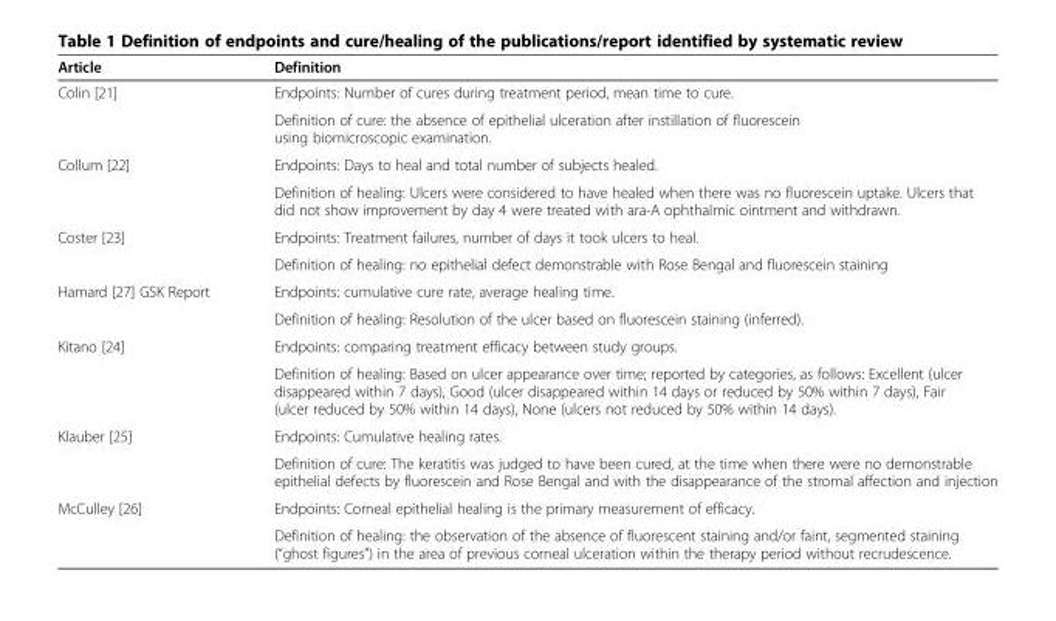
<table><thead><tr><td>Article</td><td>Definition</td></tr></thead><tbody><tr><td rowspan="2">Colin [21]</td><td>Endpoints: Number of cures during treatment period, mean time to cure.</td></tr><tr><td>Definition of cure: the absence of epithelial ulceration after instillation of fluorescein using biomicroscopic examination.</td></tr><tr><td rowspan="2">Collum [22]</td><td>Endpoints: Days to heal and total number of subjects healed.</td></tr><tr><td>Definition of healing: Ulcers were considered to have healed when there was no fluorescein uptake. Ulcers that did not show improvement by day 4 were treated with ara-A ophthalmic ointment and withdrawn.</td></tr><tr><td rowspan="2">Coster [23]</td><td>Endpoints: Treatment failures, number of days it took ulcers to heal.</td></tr><tr><td>Definition of healing: no epithelial defect demonstrable with Rose Bengal and fluorescein staining</td></tr><tr><td rowspan="2">Hamard [27] GSK Report</td><td>Endpoints: cumulative cure rate, average healing time.</td></tr><tr><td>Definition of healing: Resolution of the ulcer based on fluorescein staining (inferred).</td></tr><tr><td rowspan="2">Kitano [24]</td><td>Endpoints: comparing treatment efficacy between study groups.</td></tr><tr><td>Definition of healing: Based on ulcer appearance over time; reported by categories, as follows: Excellent (ulcer disappeared within 7 days), Good (ulcer disappeared within 14 days or reduced by 50% within 7 days), Fair (ulcer reduced by 50% within 14 days), None (ulcers not reduced by 50% within 14 days).</td></tr><tr><td rowspan="2">Klauber [25]</td><td>Endpoints: Cumulative healing rates.</td></tr><tr><td>Definition of cure: The keratitis was judged to have been cured, at the time when there were no demonstrable epithelial defects by fluorescein and Rose Bengal and with the disappearance of the stromal affection and injection</td></tr><tr><td rowspan="2">McCulley [26]</td><td>Endpoints: Corneal epithelial healing is the primary measurement of efficacy.</td></tr><tr><td>Definition of healing: the observation of the absence of fluorescent staining and/or faint, segmented staining (“ghost figures”) in the area of previous corneal ulceration within the therapy period without recrudescence.</td></tr></tbody></table>